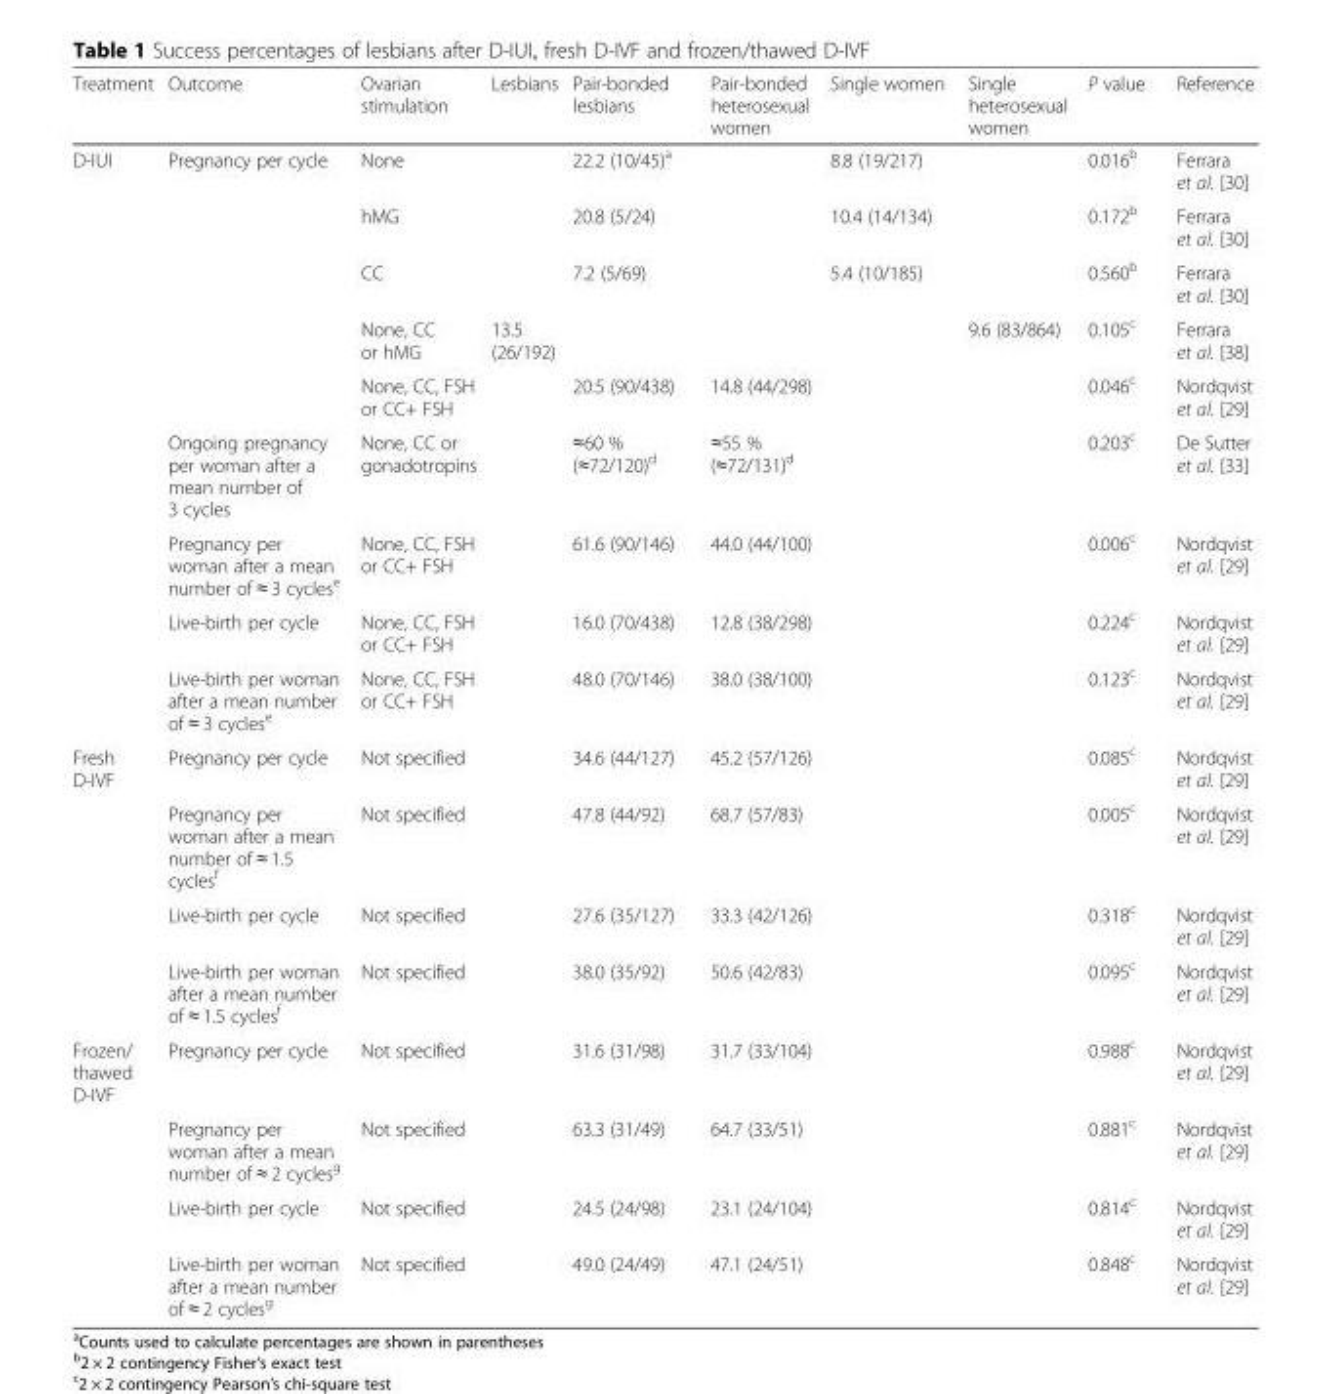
<table><thead><tr><td>Treatment</td><td>Outcome</td><td>Ovarian stimulation</td><td>Lesbians</td><td>Pair-bonded lesbians</td><td>Pair-bonded heterosexual women</td><td>Single women</td><td>Single heterosexual women</td><td>P value</td><td>Reference</td></tr></thead><tbody><tr><td rowspan="9">D-IUI</td><td>Pregnancy per cycle</td><td>None</td><td></td><td>22.2 (10/45)<sup>a</sup></td><td></td><td>8.8 (19/217)</td><td></td><td>0.016<sup>b</sup></td><td>Ferrara et al. [30]</td></tr><tr><td></td><td>hMG</td><td></td><td>20.8 (5/24)</td><td></td><td>10.4 (14/134)</td><td></td><td>0.172<sup>b</sup></td><td>Ferrara et al. [30]</td></tr><tr><td></td><td>CC</td><td></td><td>7.2 (5/69)</td><td></td><td>5.4 (10/185)</td><td></td><td>0.560<sup>b</sup></td><td>Ferrara et al. [30]</td></tr><tr><td></td><td>None, CC or hMG</td><td>13.5 (26/192)</td><td></td><td></td><td></td><td>9.6 (83/864)</td><td>0.105<sup>c</sup></td><td>Ferrara et al. [38]</td></tr><tr><td></td><td>None, CC, FSH or CC+ FSH</td><td></td><td>20.5 (90/438)</td><td>14.8 (44/298)</td><td></td><td></td><td>0.046<sup>c</sup></td><td>Nordqvist et al. [29]</td></tr><tr><td>Ongoing pregnancy per woman after a mean number of 3 cycles</td><td>None, CC or gonadotropins</td><td></td><td>≈60 % (≈72/120)<sup>d</sup></td><td>≈55 % (≈72/131)<sup>d</sup></td><td></td><td></td><td>0.203<sup>c</sup></td><td>De Sutter et al. [33]</td></tr><tr><td>Pregnancy per woman after a mean number of ≈ 3 cycles<sup>e</sup></td><td>None, CC, FSH or CC+ FSH</td><td></td><td>61.6 (90/146)</td><td>44.0 (44/100)</td><td></td><td></td><td>0.006<sup>c</sup></td><td>Nordqvist et al. [29]</td></tr><tr><td>Live-birth per cycle</td><td>None, CC, FSH or CC+ FSH</td><td></td><td>16.0 (70/438)</td><td>12.8 (38/298)</td><td></td><td></td><td>0.224<sup>c</sup></td><td>Nordqvist et al. [29]</td></tr><tr><td>Live-birth per woman after a mean number of ≈ 3 cycles<sup>e</sup></td><td>None, CC, FSH or CC+ FSH</td><td></td><td>48.0 (70/146)</td><td>38.0 (38/100)</td><td></td><td></td><td>0.123<sup>c</sup></td><td>Nordqvist et al. [29]</td></tr><tr><td rowspan="4">Fresh D-IVF</td><td>Pregnancy per cycle</td><td>Not specified</td><td></td><td>34.6 (44/127)</td><td>45.2 (57/126)</td><td></td><td></td><td>0.085<sup>c</sup></td><td>Nordqvist et al. [29]</td></tr><tr><td>Pregnancy per woman after a mean number of ≈ 1.5 cycles<sup>f</sup></td><td>Not specified</td><td></td><td>47.8 (44/92)</td><td>68.7 (57/83)</td><td></td><td></td><td>0.005<sup>c</sup></td><td>Nordqvist et al. [29]</td></tr><tr><td>Live-birth per cycle</td><td>Not specified</td><td></td><td>27.6 (35/127)</td><td>33.3 (42/126)</td><td></td><td></td><td>0.318<sup>c</sup></td><td>Nordqvist et al. [29]</td></tr><tr><td>Live-birth per woman after a mean number of ≈ 1.5 cycles<sup>f</sup></td><td>Not specified</td><td></td><td>38.0 (35/92)</td><td>50.6 (42/83)</td><td></td><td></td><td>0.095<sup>c</sup></td><td>Nordqvist et al. [29]</td></tr><tr><td rowspan="4">Frozen/ thawed D-IVF</td><td>Pregnancy per cycle</td><td>Not specified</td><td></td><td>31.6 (31/98)</td><td>31.7 (33/104)</td><td></td><td></td><td>0.988<sup>c</sup></td><td>Nordqvist et al. [29]</td></tr><tr><td>Pregnancy per woman after a mean number of ≈ 2 cycles<sup>g</sup></td><td>Not specified</td><td></td><td>63.3 (31/49)</td><td>64.7 (33/51)</td><td></td><td></td><td>0.881<sup>c</sup></td><td>Nordqvist et al. [29]</td></tr><tr><td>Live-birth per cycle</td><td>Not specified</td><td></td><td>24.5 (24/98)</td><td>23.1 (24/104)</td><td></td><td></td><td>0.814<sup>c</sup></td><td>Nordqvist et al. [29]</td></tr><tr><td>Live-birth per woman after a mean number of ≈ 2 cycles<sup>g</sup></td><td>Not specified</td><td></td><td>49.0 (24/49)</td><td>47.1 (24/51)</td><td></td><td></td><td>0.848<sup>c</sup></td><td>Nordqvist et al. [29]</td></tr></tbody></table>